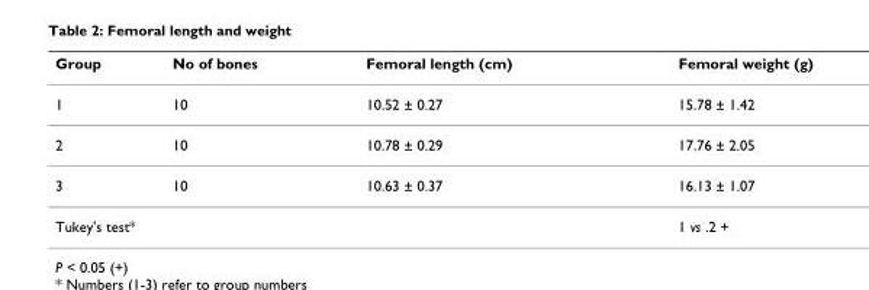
<table><thead><tr><td>Group</td><td>No of bones</td><td>Femoral length (cm)</td><td>Femoral weight (g)</td></tr></thead><tbody><tr><td>1</td><td>10</td><td>10.52 ± 0.27</td><td>15.78 ± 1.42</td></tr><tr><td>2</td><td>10</td><td>10.78 ± 0.29</td><td>17.76 ± 2.05</td></tr><tr><td>3</td><td>10</td><td>10.63 ± 0.37</td><td>16.13 ± 1.07</td></tr><tr><td colspan="2">Tukey&#x27;s test*</td><td></td><td>1 vs .2 +</td></tr></tbody></table>